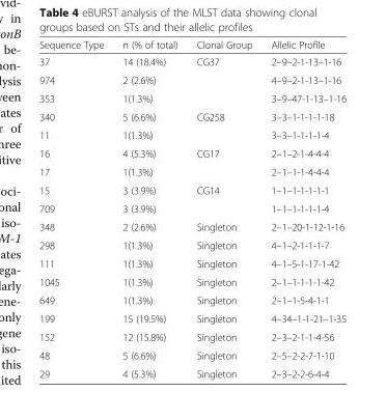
<table><thead><tr><td>Sequence Type</td><td>n (% of total)</td><td>Clonal Group</td><td>Allelic Profile</td></tr></thead><tbody><tr><td>37</td><td>14 (18.4%)</td><td rowspan="3">CG37</td><td>2–9–2-1-13–1-16</td></tr><tr><td>974</td><td>2 (2.6%)</td><td>4–9–2-1-13–1-16</td></tr><tr><td>353</td><td>1(1.3%)</td><td>3–9–47-1-13–1-16</td></tr><tr><td>340</td><td>5 (6.6%)</td><td rowspan="2">CG258</td><td>3–3–1-1-1-1-18</td></tr><tr><td>11</td><td>1(1.3%)</td><td>3–3–1-1-1-1-4</td></tr><tr><td>16</td><td>4 (5.3%)</td><td rowspan="2">CG17</td><td>2–1–2-1-4-4-4</td></tr><tr><td>17</td><td>1(1.3%)</td><td>2–1–1-1-4-4-4</td></tr><tr><td>15</td><td>3 (3.9%)</td><td rowspan="2">CG14</td><td>1–1–1-1-1-1-1</td></tr><tr><td>709</td><td>3 (3.9%)</td><td>1–1–1-1-1-1-4</td></tr><tr><td>348</td><td>2 (2.6%)</td><td>Singleton</td><td>2–1–20-1-12-1-16</td></tr><tr><td>298</td><td>1(1.3%)</td><td>Singleton</td><td>4–1–2-1-1-1-7</td></tr><tr><td>111</td><td>1(1.3%)</td><td>Singleton</td><td>4–1–5-1-17-1-42</td></tr><tr><td>1045</td><td>1(1.3%)</td><td>Singleton</td><td>2–1–1-1-1-1-42</td></tr><tr><td>649</td><td>1(1.3%)</td><td>Singleton</td><td>2–1–1-5-4-1-1</td></tr><tr><td>199</td><td>15 (19.5%)</td><td>Singleton</td><td>4–34–1-1-21–1-35</td></tr><tr><td>152</td><td>12 (15.8%)</td><td>Singleton</td><td>2–3–2-1-1-4-56</td></tr><tr><td>48</td><td>5 (6.6%)</td><td>Singleton</td><td>2–5–2-2-7-1-10</td></tr><tr><td>29</td><td>4 (5.3%)</td><td>Singleton</td><td>2–3–2-2-6-4-4</td></tr></tbody></table>